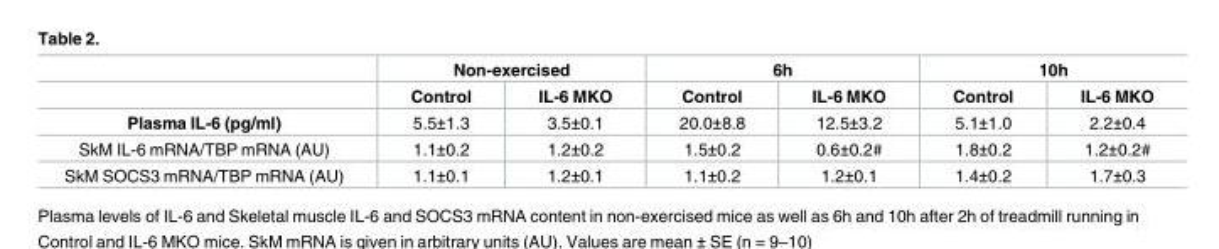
<table><thead><tr><td rowspan="2"></td><td colspan="2">Non-exercised</td><td colspan="2">6h</td><td colspan="2">10h</td></tr><tr><td>Control</td><td>IL-6 MKO</td><td>Control</td><td>IL-6 MKO</td><td>Control</td><td>IL-6 MKO</td></tr></thead><tbody><tr><td>Plasma IL-6 (pg/ml)</td><td>5.5±1.3</td><td>3.5±0.1</td><td>20.0±8.8</td><td>12.5±3.2</td><td>5.1±1.0</td><td>2.2±0.4</td></tr><tr><td>SkM IL-6 mRNA/TBP mRNA (AU)</td><td>1.1±0.2</td><td>1.2±0.2</td><td>1.5±0.2</td><td>0.6±0.2#</td><td>1.8±0.2</td><td>1.2±0.2#</td></tr><tr><td>SkM SOCS3 mRNA/TBP mRNA (AU)</td><td>1.1±0.1</td><td>1.2±0.1</td><td>1.1±0.2</td><td>1.2±0.1</td><td>1.4±0.2</td><td>1.7±0.3</td></tr></tbody></table>